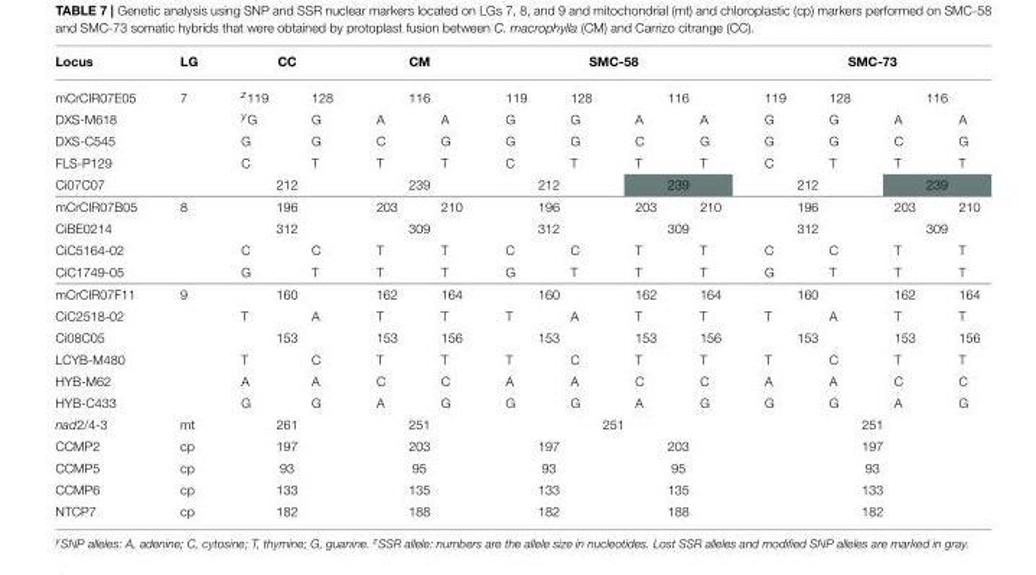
<table><thead><tr><td rowspan="3">Locus mCrCIR07E05 DXS-M618</td><td rowspan="3">LG 7</td><td colspan="2">CC</td><td rowspan="2" colspan="2">CM 116</td><td colspan="4">SMC-58</td><td colspan="4">SMC-73</td></tr><tr><td rowspan="2">z119 yG</td><td rowspan="2">128 G</td><td rowspan="2">119 G</td><td rowspan="2">128 G</td><td colspan="2">116</td><td rowspan="2">119 G</td><td rowspan="2">128 G</td><td colspan="2">116</td></tr><tr><td>A</td><td>A</td><td>A</td><td>A</td><td>A</td><td>A</td></tr></thead><tbody><tr><td>DXS-C545</td><td></td><td>G</td><td>G</td><td>C</td><td>G</td><td>G</td><td>G</td><td>C</td><td>G</td><td>G</td><td>G</td><td>C</td><td>G</td></tr><tr><td>FLS-P129</td><td></td><td>C</td><td>T</td><td>T</td><td>T</td><td>C</td><td>T</td><td>T</td><td>T</td><td>C</td><td>T</td><td>T</td><td>T</td></tr><tr><td>Ci07C07</td><td></td><td colspan="2">212</td><td colspan="2">239</td><td colspan="2">212</td><td colspan="2">239</td><td colspan="2">212</td><td colspan="2">239</td></tr><tr><td>mCrCIR07B05</td><td>8</td><td colspan="2">196</td><td>203</td><td>210</td><td colspan="2">196</td><td>203</td><td>210</td><td colspan="2">196</td><td>203</td><td>210</td></tr><tr><td>CiBE0214</td><td></td><td colspan="2">312</td><td colspan="2">309</td><td colspan="2">312</td><td colspan="2">309</td><td colspan="2">312</td><td colspan="2">309</td></tr><tr><td>CiC5164-02</td><td></td><td>C</td><td>C</td><td>T</td><td>T</td><td>C</td><td>C</td><td>T</td><td>T</td><td>C</td><td>C</td><td>T</td><td>T</td></tr><tr><td>CiC1749-05</td><td></td><td>G</td><td>T</td><td>T</td><td>T</td><td>G</td><td>T</td><td>T</td><td>T</td><td>G</td><td>T</td><td>T</td><td>T</td></tr><tr><td>mCrCIR07F11</td><td>9</td><td colspan="2">160</td><td>162</td><td>164</td><td colspan="2">160</td><td>162</td><td>164</td><td colspan="2">160</td><td>162</td><td>164</td></tr><tr><td>CiC2518-02</td><td></td><td>T</td><td>A</td><td>T</td><td>T</td><td>T</td><td>A</td><td>T</td><td>T</td><td>T</td><td>A</td><td>T</td><td>T</td></tr><tr><td>Ci08C05</td><td></td><td colspan="2">153</td><td>153</td><td>156</td><td colspan="2">153</td><td>153</td><td>156</td><td colspan="2">153</td><td>153</td><td>156</td></tr><tr><td>LCYB-M480</td><td></td><td>T</td><td>C</td><td>T</td><td>T</td><td>T</td><td>C</td><td>T</td><td>T</td><td>T</td><td>C</td><td>T</td><td>T</td></tr><tr><td>HYB-M62</td><td></td><td>A</td><td>A</td><td>C</td><td>C</td><td>A</td><td>A</td><td>C</td><td>C</td><td>A</td><td>A</td><td>C</td><td>C</td></tr><tr><td>HYB-C433</td><td></td><td>G</td><td>G</td><td>A</td><td>G</td><td>G</td><td>G</td><td>A</td><td>G</td><td>G</td><td>G</td><td>A</td><td>G</td></tr><tr><td>nad2/4-3</td><td>mt</td><td colspan="2">261</td><td colspan="2">251</td><td colspan="4">251</td><td colspan="4">251</td></tr><tr><td>CCMP2</td><td>cp</td><td colspan="2">197</td><td colspan="2">203</td><td colspan="2">197</td><td colspan="2">203</td><td colspan="4">197</td></tr><tr><td>CCMP5</td><td>cp</td><td colspan="2">93</td><td colspan="2">95</td><td colspan="2">93</td><td colspan="2">95</td><td colspan="4">93</td></tr><tr><td>CCMP6</td><td>cp</td><td colspan="2">133</td><td colspan="2">135</td><td colspan="2">133</td><td colspan="2">135</td><td colspan="4">133</td></tr><tr><td>NTCP7</td><td>cp</td><td colspan="2">182</td><td colspan="2">188</td><td colspan="2">182</td><td colspan="2">188</td><td colspan="4">182</td></tr></tbody></table>